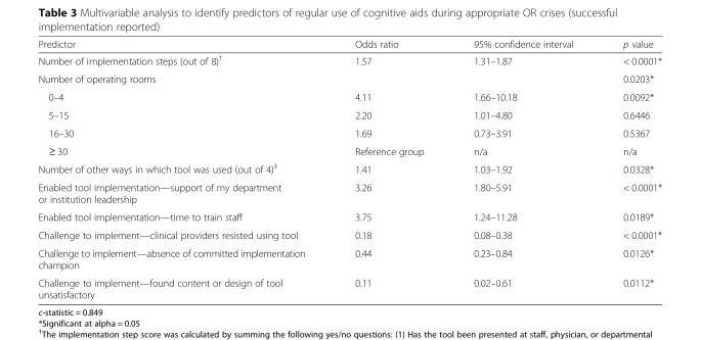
<table><thead><tr><td>Predictor</td><td>Odds ratio</td><td>95% confidence interval</td><td>p value</td></tr></thead><tbody><tr><td>Number of implementation steps (out of 8)<sup>†</sup></td><td>1.57</td><td>1.31–1.87</td><td>&lt; 0.0001*</td></tr><tr><td>Number of operating rooms</td><td></td><td></td><td>0.0203*</td></tr><tr><td>0–4</td><td>4.11</td><td>1.66–10.18</td><td>0.0092*</td></tr><tr><td>5–15</td><td>2.20</td><td>1.01–4.80</td><td>0.6446</td></tr><tr><td>16–30</td><td>1.69</td><td>0.73–3.91</td><td>0.5367</td></tr><tr><td>≥ 30</td><td>Reference group</td><td>n/a</td><td>n/a</td></tr><tr><td>Number of other ways in which tool was used (out of 4)<sup>‡</sup></td><td>1.41</td><td>1.03–1.92</td><td>0.0328*</td></tr><tr><td>Enabled tool implementation—support of my department or institution leadership</td><td>3.26</td><td>1.80–5.91</td><td>&lt; 0.0001*</td></tr><tr><td>Enabled tool implementation—time to train staff</td><td>3.75</td><td>1.24–11.28</td><td>0.0189*</td></tr><tr><td>Challenge to implement—clinical providers resisted using tool</td><td>0.18</td><td>0.08–0.38</td><td>&lt; 0.0001*</td></tr><tr><td>Challenge to implement—absence of committed implementation champion</td><td>0.44</td><td>0.23–0.84</td><td>0.0126*</td></tr><tr><td>Challenge to implement—found content or design of tool unsatisfactory</td><td>0.11</td><td>0.02–0.61</td><td>0.0112*</td></tr></tbody></table>